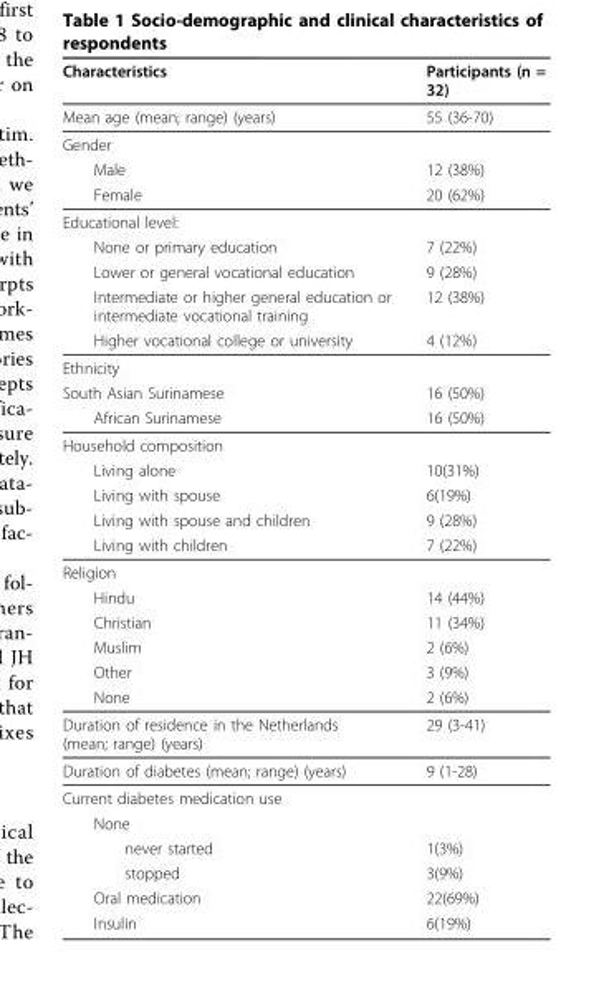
<table><thead><tr><td>Characteristics</td><td>Participants (n = 32)</td></tr></thead><tbody><tr><td>Mean age (mean; range) (years)</td><td>55 (36-70)</td></tr><tr><td colspan="2">Gender</td></tr><tr><td>Male</td><td>12 (38%)</td></tr><tr><td>Female</td><td>20 (62%)</td></tr><tr><td colspan="2">Educational level:</td></tr><tr><td>None or primary education</td><td>7 (22%)</td></tr><tr><td>Lower or general vocational education</td><td>9 (28%)</td></tr><tr><td>Intermediate or higher general education or intermediate vocational training</td><td>12 (38%)</td></tr><tr><td>Higher vocational college or university</td><td>4 (12%)</td></tr><tr><td colspan="2">Ethnicity</td></tr><tr><td>South Asian Surinamese</td><td>16 (50%)</td></tr><tr><td>African Surinamese</td><td>16 (50%)</td></tr><tr><td colspan="2">Household composition</td></tr><tr><td>Living alone</td><td>10(31%)</td></tr><tr><td>Living with spouse</td><td>6(19%)</td></tr><tr><td>Living with spouse and children</td><td>9 (28%)</td></tr><tr><td>Living with children</td><td>7 (22%)</td></tr><tr><td colspan="2">Religion</td></tr><tr><td>Hindu</td><td>14 (44%)</td></tr><tr><td>Christian</td><td>11 (34%)</td></tr><tr><td>Muslim</td><td>2 (6%)</td></tr><tr><td>Other</td><td>3 (9%)</td></tr><tr><td>None</td><td>2 (6%)</td></tr><tr><td>Duration of residence in the Netherlands (mean; range) (years)</td><td>29 (3-41)</td></tr><tr><td>Duration of diabetes (mean; range) (years)</td><td>9 (1-28)</td></tr><tr><td colspan="2">Current diabetes medication use</td></tr><tr><td colspan="2">None</td></tr><tr><td>never started</td><td>1(3%)</td></tr><tr><td>stopped</td><td>3(9%)</td></tr><tr><td>Oral medication</td><td>22(69%)</td></tr><tr><td>Insulin</td><td>6(19%)</td></tr></tbody></table>